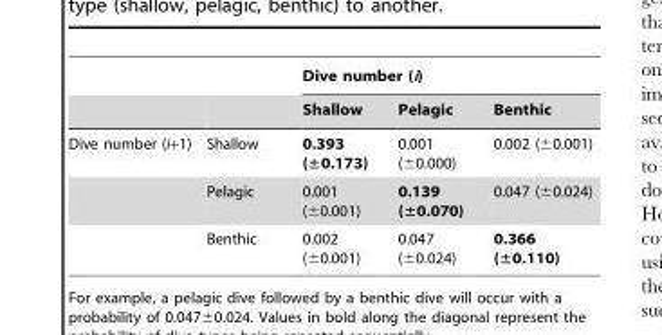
<table><thead><tr><td rowspan="2"></td><td rowspan="2"></td><td colspan="3">Dive number (i)</td></tr><tr><td>Shallow</td><td>Pelagic</td><td>Benthic</td></tr></thead><tbody><tr><td rowspan="3">Dive number (i+1)</td><td>Shallow</td><td>0.393 (±0.173)</td><td>0.001 (±0.000)</td><td>0.002 (±0.001)</td></tr><tr><td>Pelagic</td><td>0.001 (±0.001)</td><td>0.139 (±0.070)</td><td>0.047 (±0.024)</td></tr><tr><td>Benthic</td><td>0.002 (±0.001)</td><td>0.047 (±0.024)</td><td>0.366 (±0.110)</td></tr></tbody></table>